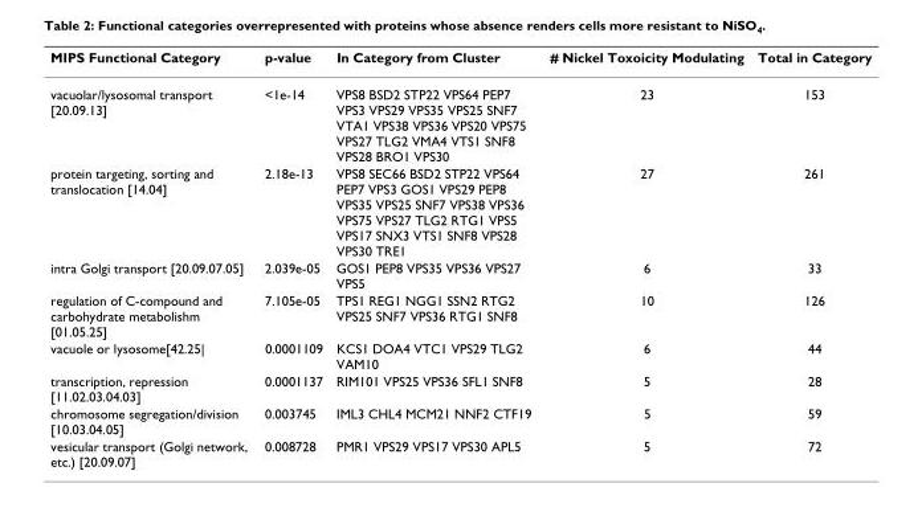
<table><thead><tr><td>MIPS Functional Category</td><td>p-value</td><td>In Category from Cluster</td><td># Nickel Toxoicity Modulating</td><td>Total in Category</td></tr></thead><tbody><tr><td>vacuolar/lysosomal transport [20.09.13]</td><td>&lt;1e-14</td><td>VPS8 BSD2 STP22 VPS64 PEP7 VPS3 VPS29 VPS35 VPS25 SNF7 VTA1 VPS38 VPS36 VPS20 VPS75 VPS27 TLG2 VMA4 VTS1 SNF8 VPS28 BRO1 VPS30</td><td>23</td><td>153</td></tr><tr><td>protein targeting, sorting and translocation [14.04]</td><td>2.18e-13</td><td>VPS8 SEC66 BSD2 STP22 VPS64 PEP7 VPS3 GOS1 VPS29 PEP8 VPS35 VPS25 SNF7 VPS38 VPS36 VPS75 VPS27 TLG2 RTG1 VPS5 VPS17 SNX3 VTS1 SNF8 VPS28 VPS30 TRE1</td><td>27</td><td>261</td></tr><tr><td>intra Golgi transport [20.09.07.05]</td><td>2.039e-05</td><td>GOS1 PEP8 VPS35 VPS36 VPS27 VPS5</td><td>6</td><td>33</td></tr><tr><td>regulation of C-compound and carbohydrate metabolishm [01.05.25]</td><td>7.105e-05</td><td>TPS1 REG1 NGG1 SSN2 RTG2 VPS25 SNF7 VPS36 RTG1 SNF8</td><td>10</td><td>126</td></tr><tr><td>vacuole or lysosome[42.25|</td><td>0.0001109</td><td>KCS1 DOA4 VTC1 VPS29 TLG2 VAM10</td><td>6</td><td>44</td></tr><tr><td>transcription, repression [11.02.03.04.03]</td><td>0.0001137</td><td>RIM101 VPS25 VPS36 SFL1 SNF8</td><td>5</td><td>28</td></tr><tr><td>chromosome segregation/division [10.03.04.05]</td><td>0.003745</td><td>IML3 CHL4 MCM21 NNF2 CTF19</td><td>5</td><td>59</td></tr><tr><td>vesicular transport (Golgi network, etc.) [20.09.07]</td><td>0.008728</td><td>PMR1 VPS29 VPS17 VPS30 APL5</td><td>5</td><td>72</td></tr></tbody></table>